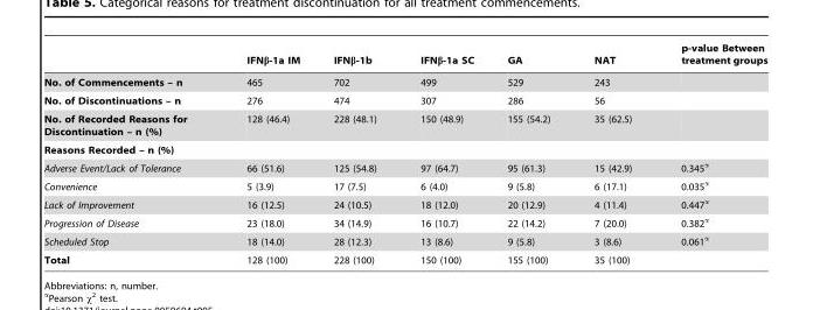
<table><thead><tr><td></td><td>IFNβ-1a IM</td><td>IFNβ-1b</td><td>IFNβ-1a SC</td><td>GA</td><td>NAT</td><td>p-value Between treatment groups</td></tr></thead><tbody><tr><td>No. of Commencements – n</td><td>465</td><td>702</td><td>499</td><td>529</td><td>243</td><td></td></tr><tr><td>No. of Discontinuations – n</td><td>276</td><td>474</td><td>307</td><td>286</td><td>56</td><td></td></tr><tr><td>No. of Recorded Reasons for Discontinuation – n (%)</td><td>128 (46.4)</td><td>228 (48.1)</td><td>150 (48.9)</td><td>155 (54.2)</td><td>35 (62.5)</td><td></td></tr><tr><td colspan="7">Reasons Recorded – n (%)</td></tr><tr><td>Adverse Event/Lack of Tolerance</td><td>66 (51.6)</td><td>125 (54.8)</td><td>97 (64.7)</td><td>95 (61.3)</td><td>15 (42.9)</td><td>0.345α</td></tr><tr><td>Convenience</td><td>5 (3.9)</td><td>17 (7.5)</td><td>6 (4.0)</td><td>9 (5.8)</td><td>6 (17.1)</td><td>0.035α</td></tr><tr><td>Lack of Improvement</td><td>16 (12.5)</td><td>24 (10.5)</td><td>18 (12.0)</td><td>20 (12.9)</td><td>4 (11.4)</td><td>0.447α</td></tr><tr><td>Progression of Disease</td><td>23 (18.0)</td><td>34 (14.9)</td><td>16 (10.7)</td><td>22 (14.2)</td><td>7 (20.0)</td><td>0.382α</td></tr><tr><td>Scheduled Stop</td><td>18 (14.0)</td><td>28 (12.3)</td><td>13 (8.6)</td><td>9 (5.8)</td><td>3 (8.6)</td><td>0.061α</td></tr><tr><td>Total</td><td>128 (100)</td><td>228 (100)</td><td>150 (100)</td><td>155 (100)</td><td>35 (100)</td><td></td></tr></tbody></table>